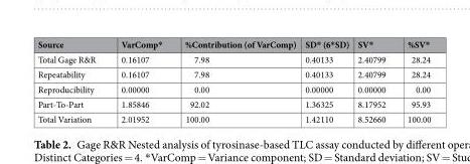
<table><thead><tr><td>Source</td><td>VarComp*</td><td>%Contribution (of VarComp)</td><td>SD* (6*SD)</td><td>SV*</td><td>%SV*</td></tr></thead><tbody><tr><td>Total Gage R&amp;R</td><td>0.16107</td><td>7.98</td><td>0.40133</td><td>2.40799</td><td>28.24</td></tr><tr><td>Repeatability</td><td>0.16107</td><td>7.98</td><td>0.40133</td><td>2.40799</td><td>28.24</td></tr><tr><td>Reproducibility</td><td>0.00000</td><td>0.00</td><td>0.00000</td><td>0.00000</td><td>0.00</td></tr><tr><td>Part-To-Part</td><td>1.85846</td><td>92.02</td><td>1.36325</td><td>8.17952</td><td>95.93</td></tr><tr><td>Total Variation</td><td>2.01952</td><td>100.00</td><td>1.42110</td><td>8.52660</td><td>100.00</td></tr></tbody></table>